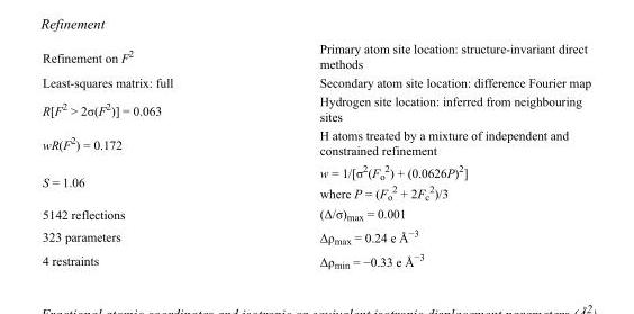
<table><tbody><tr><td>Refinement on F<sup>2</sup></td><td>Primary atom site location: structure-invariant direct methods</td></tr><tr><td>Least-squares matrix: full</td><td>Secondary atom site location: difference Fourier map</td></tr><tr><td>R[F<sup>2</sup> &gt; 2σ(F<sup>2</sup>)] = 0.063</td><td>Hydrogen site location: inferred from neighbouring sites</td></tr><tr><td>wR(F<sup>2</sup>) = 0.172</td><td>H atoms treated by a mixture of independent and constrained refinement</td></tr><tr><td>S = 1.06</td><td>w = 1/[σ<sup>2</sup>(F<sub>o</sub> <sup>2</sup>) + (0.0626P)<sup>2</sup>] where P = (F<sub>o</sub> <sup>2</sup> + 2F<sub>c</sub> <sup>2</sup>)/3</td></tr><tr><td>5142 reflections</td><td>(Δ/σ)<sub>max</sub> = 0.001</td></tr><tr><td>323 parameters</td><td>Δρ<sub>max</sub> = 0.24 e Å<sup>−3</sup></td></tr><tr><td>4 restraints</td><td>Δρ<sub>min</sub> = −0.33 e Å<sup>−3</sup></td></tr></tbody></table>